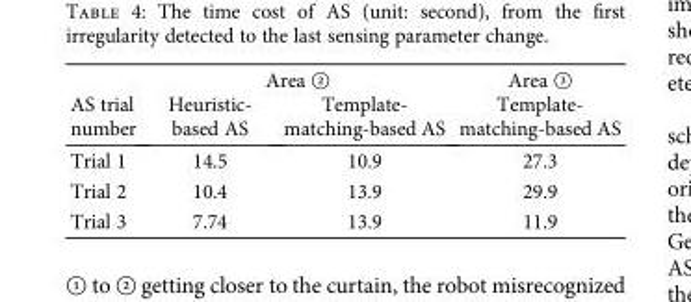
<table><thead><tr><td rowspan="2">AS trial number</td><td colspan="2">Area ②</td><td rowspan="2">Area ③ Template- matching-based AS</td></tr><tr><td>Heuristic- based AS</td><td>Template- matching-based AS</td></tr></thead><tbody><tr><td>Trial 1</td><td>14.5</td><td>10.9</td><td>27.3</td></tr><tr><td>Trial 2</td><td>10.4</td><td>13.9</td><td>29.9</td></tr><tr><td>Trial 3</td><td>7.74</td><td>13.9</td><td>11.9</td></tr></tbody></table>